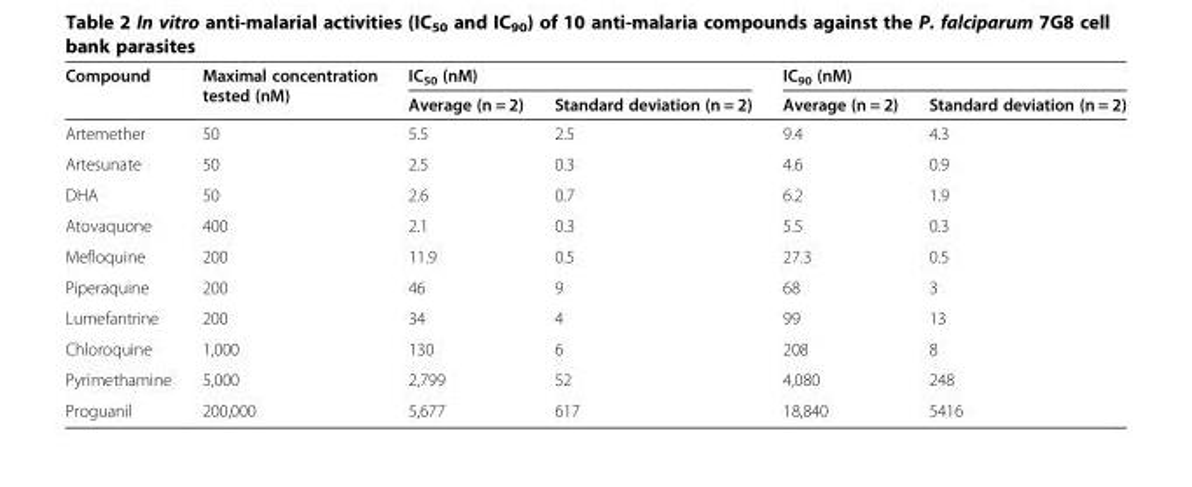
<table><thead><tr><td rowspan="2">Compound</td><td rowspan="2">Maximal concentration tested (nM)</td><td colspan="2">IC<sub>50</sub> (nM)</td><td colspan="2">IC<sub>90</sub> (nM)</td></tr><tr><td>Average (n = 2)</td><td>Standard deviation (n = 2)</td><td>Average (n = 2)</td><td>Standard deviation (n = 2)</td></tr></thead><tbody><tr><td>Artemether</td><td>50</td><td>5.5</td><td>2.5</td><td>9.4</td><td>4.3</td></tr><tr><td>Artesunate</td><td>50</td><td>2.5</td><td>0.3</td><td>4.6</td><td>0.9</td></tr><tr><td>DHA</td><td>50</td><td>2.6</td><td>0.7</td><td>6.2</td><td>1.9</td></tr><tr><td>Atovaquone</td><td>400</td><td>2.1</td><td>0.3</td><td>5.5</td><td>0.3</td></tr><tr><td>Mefloquine</td><td>200</td><td>11.9</td><td>0.5</td><td>27.3</td><td>0.5</td></tr><tr><td>Piperaquine</td><td>200</td><td>46</td><td>9</td><td>68</td><td>3</td></tr><tr><td>Lumefantrine</td><td>200</td><td>34</td><td>4</td><td>99</td><td>13</td></tr><tr><td>Chloroquine</td><td>1,000</td><td>130</td><td>6</td><td>208</td><td>8</td></tr><tr><td>Pyrimethamine</td><td>5,000</td><td>2,799</td><td>52</td><td>4,080</td><td>248</td></tr><tr><td>Proguanil</td><td>200,000</td><td>5,677</td><td>617</td><td>18,840</td><td>5416</td></tr></tbody></table>